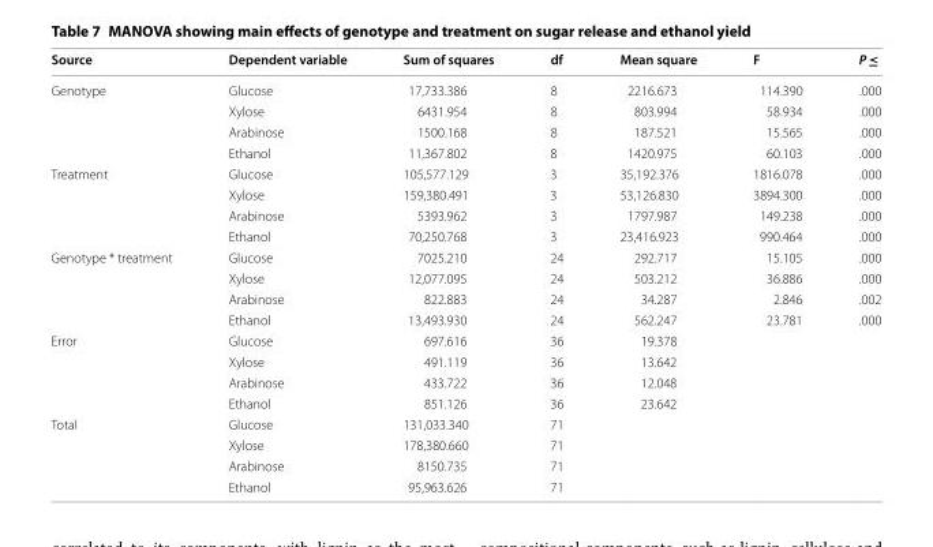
<table><thead><tr><td>Source</td><td>Dependent variable</td><td>Sum of squares</td><td>df</td><td>Mean square</td><td>F</td><td>P ≤</td></tr></thead><tbody><tr><td rowspan="4">Genotype</td><td>Glucose</td><td>17,733.386</td><td>8</td><td>2216.673</td><td>114.390</td><td>.000</td></tr><tr><td>Xylose</td><td>6431.954</td><td>8</td><td>803.994</td><td>58.934</td><td>.000</td></tr><tr><td>Arabinose</td><td>1500.168</td><td>8</td><td>187.521</td><td>15.565</td><td>.000</td></tr><tr><td>Ethanol</td><td>11,367.802</td><td>8</td><td>1420.975</td><td>60.103</td><td>.000</td></tr><tr><td rowspan="4">Treatment</td><td>Glucose</td><td>105,577.129</td><td>3</td><td>35,192.376</td><td>1816.078</td><td>.000</td></tr><tr><td>Xylose</td><td>159,380.491</td><td>3</td><td>53,126.830</td><td>3894.300</td><td>.000</td></tr><tr><td>Arabinose</td><td>5393.962</td><td>3</td><td>1797.987</td><td>149.238</td><td>.000</td></tr><tr><td>Ethanol</td><td>70,250.768</td><td>3</td><td>23,416.923</td><td>990.464</td><td>.000</td></tr><tr><td rowspan="4">Genotype * treatment</td><td>Glucose</td><td>7025.210</td><td>24</td><td>292.717</td><td>15.105</td><td>.000</td></tr><tr><td>Xylose</td><td>12,077.095</td><td>24</td><td>503.212</td><td>36.886</td><td>.000</td></tr><tr><td>Arabinose</td><td>822.883</td><td>24</td><td>34.287</td><td>2.846</td><td>.002</td></tr><tr><td>Ethanol</td><td>13,493.930</td><td>24</td><td>562.247</td><td>23.781</td><td>.000</td></tr><tr><td rowspan="4">Error</td><td>Glucose</td><td>697.616</td><td>36</td><td>19.378</td><td></td><td></td></tr><tr><td>Xylose</td><td>491.119</td><td>36</td><td>13.642</td><td></td><td></td></tr><tr><td>Arabinose</td><td>433.722</td><td>36</td><td>12.048</td><td></td><td></td></tr><tr><td>Ethanol</td><td>851.126</td><td>36</td><td>23.642</td><td></td><td></td></tr><tr><td rowspan="4">Total</td><td>Glucose</td><td>131,033.340</td><td>71</td><td></td><td></td><td></td></tr><tr><td>Xylose</td><td>178,380.660</td><td>71</td><td></td><td></td><td></td></tr><tr><td>Arabinose</td><td>8150.735</td><td>71</td><td></td><td></td><td></td></tr><tr><td>Ethanol</td><td>95,963.626</td><td>71</td><td></td><td></td><td></td></tr></tbody></table>